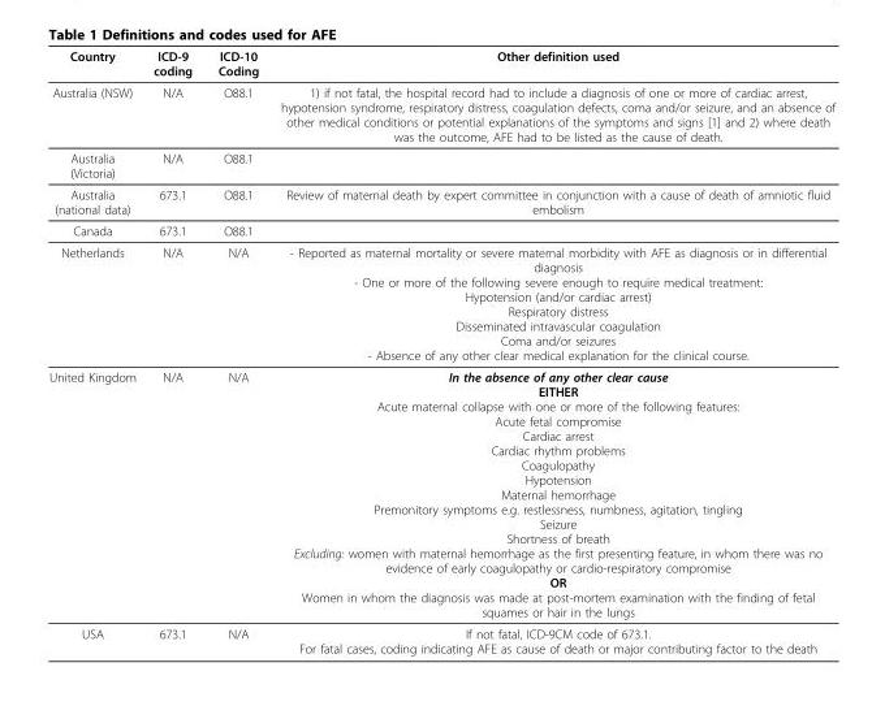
<table><thead><tr><td>Country</td><td>ICD-9 coding</td><td>ICD-10 Coding</td><td>Other definition used</td></tr></thead><tbody><tr><td>Australia (NSW)</td><td>N/A</td><td>O88.1</td><td>1) if not fatal, the hospital record had to include a diagnosis of one or more of cardiac arrest, hypotension syndrome, respiratory distress, coagulation defects, coma and/or seizure, and an absence of other medical conditions or potential explanations of the symptoms and signs [1] and 2) where death was the outcome, AFE had to be listed as the cause of death.</td></tr><tr><td>Australia (Victoria)</td><td>N/A</td><td>O88.1</td><td></td></tr><tr><td>Australia (national data)</td><td>673.1</td><td>O88.1</td><td>Review of maternal death by expert committee in conjunction with a cause of death of amniotic fluid embolism</td></tr><tr><td>Canada</td><td>673.1</td><td>O88.1</td><td></td></tr><tr><td>Netherlands</td><td>N/A</td><td>N/A</td><td>- Reported as maternal mortality or severe maternal morbidity with AFE as diagnosis or in differential diagnosis - One or more of the following severe enough to require medical treatment: Hypotension (and/or cardiac arrest) Respiratory distress Disseminated intravascular coagulation Coma and/or seizures - Absence of any other clear medical explanation for the clinical course.</td></tr><tr><td>United Kingdom</td><td>N/A</td><td>N/A</td><td>In the absence of any other clear cause EITHER Acute maternal collapse with one or more of the following features: Acute fetal compromise Cardiac arrest Cardiac rhythm problems Coagulopathy Hypotension Maternal hemorrhage Premonitory symptoms e.g. restlessness, numbness, agitation, tingling Seizure Shortness of breath Excluding: women with maternal hemorrhage as the first presenting feature, in whom there was no evidence of early coagulopathy or cardio-respiratory compromise OR Women in whom the diagnosis was made at post-mortem examination with the finding of fetal squames or hair in the lungs</td></tr><tr><td>USA</td><td>673.1</td><td>N/A</td><td>If not fatal, ICD-9CM code of 673.1. For fatal cases, coding indicating AFE as cause of death or major contributing factor to the death</td></tr></tbody></table>